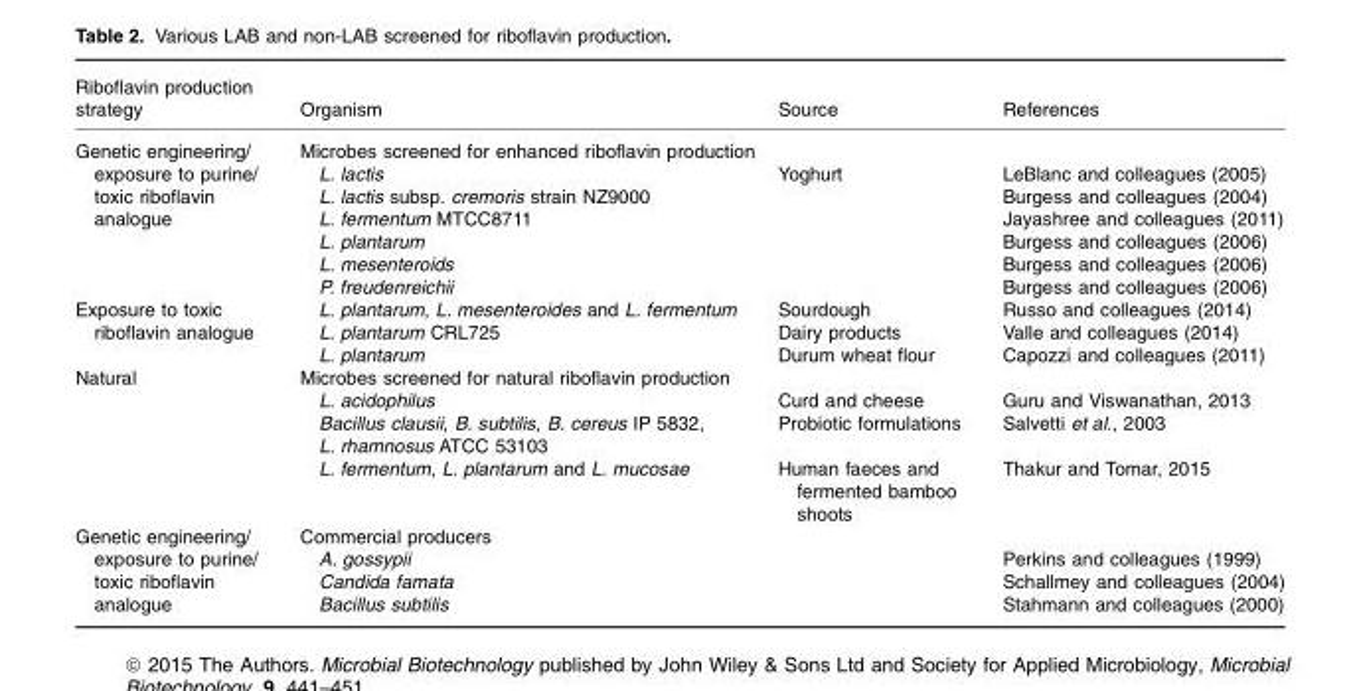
<table><thead><tr><td>Riboflavin production strategy</td><td>Organism</td><td>Source</td><td>References</td></tr></thead><tbody><tr><td rowspan="7">Genetic engineering/ exposure to purine/ toxic riboflavin analogue</td><td colspan="3">Microbes screened for enhanced riboflavin production</td></tr><tr><td>L. lactis</td><td rowspan="6">Yoghurt</td><td>LeBlanc and colleagues (2005)</td></tr><tr><td>L. lactis subsp. cremoris strain NZ9000</td><td>Burgess and colleagues (2004)</td></tr><tr><td>L. fermentum MTCC8711</td><td>Jayashree and colleagues (2011)</td></tr><tr><td>L. plantarum</td><td>Burgess and colleagues (2006)</td></tr><tr><td>L. mesenteroids</td><td>Burgess and colleagues (2006)</td></tr><tr><td>P. freudenreichii</td><td>Burgess and colleagues (2006)</td></tr><tr><td rowspan="3">Exposure to toxic riboflavin analogue</td><td>L. plantarum, L. mesenteroides and L. fermentum</td><td>Sourdough</td><td>Russo and colleagues (2014)</td></tr><tr><td>L. plantarum CRL725</td><td>Dairy products</td><td>Valle and colleagues (2014)</td></tr><tr><td>L. plantarum</td><td>Durum wheat flour</td><td>Capozzi and colleagues (2011)</td></tr><tr><td rowspan="4">Natural</td><td colspan="3">Microbes screened for natural riboflavin production</td></tr><tr><td>L. acidophilus</td><td>Curd and cheese</td><td>Guru and Viswanathan, 2013</td></tr><tr><td>Bacillus clausii, B. subtilis, B. cereus IP 5832, L. rhamnosus ATCC 53103</td><td>Probiotic formulations</td><td>Salvetti et al., 2003</td></tr><tr><td>L. fermentum, L. plantarum and L. mucosae</td><td>Human faeces and fermented bamboo shoots</td><td>Thakur and Tomar, 2015</td></tr><tr><td rowspan="4">Genetic engineering/ exposure to purine/ toxic riboflavin analogue</td><td colspan="3">Commercial producers</td></tr><tr><td>A. gossypii</td><td></td><td>Perkins and colleagues (1999)</td></tr><tr><td>Candida famata</td><td></td><td>Schallmey and colleagues (2004)</td></tr><tr><td>Bacillus subtilis</td><td></td><td>Stahmann and colleagues (2000)</td></tr></tbody></table>